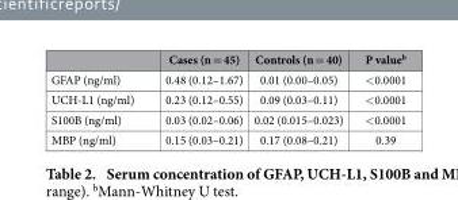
<table><thead><tr><td></td><td>Cases (n = 45)</td><td>Controls (n = 40)</td><td>P value<sup>b</sup></td></tr></thead><tbody><tr><td>GFAP (ng/ml)</td><td>0.48 (0.12–1.67)</td><td>0.01 (0.00–0.05)</td><td>&lt; 0.0001</td></tr><tr><td>UCH-L1 (ng/ml)</td><td>0.23 (0.12–0.55)</td><td>0.09 (0.03–0.11)</td><td>&lt; 0.0001</td></tr><tr><td>S100B (ng/ml)</td><td>0.03 (0.02–0.06)</td><td>0.02 (0.015–0.023)</td><td>&lt; 0.0001</td></tr><tr><td>MBP (ng/ml)</td><td>0.15 (0.03–0.21)</td><td>0.17 (0.08–0.21)</td><td>0.39</td></tr></tbody></table>